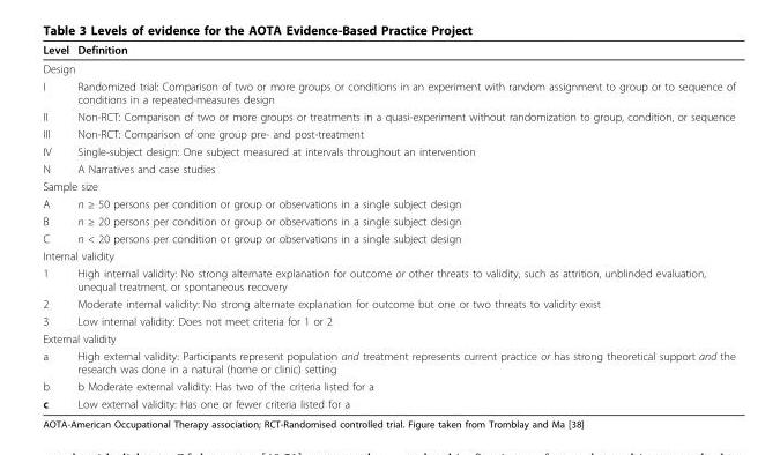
<table><thead><tr><td>Level</td><td>Definition</td></tr></thead><tbody><tr><td colspan="2">Design</td></tr><tr><td>I</td><td>Randomized trial: Comparison of two or more groups or conditions in an experiment with random assignment to group or to sequence of conditions in a repeated-measures design</td></tr><tr><td>II</td><td>Non-RCT: Comparison of two or more groups or treatments in a quasi-experiment without randomization to group, condition, or sequence</td></tr><tr><td>III</td><td>Non-RCT: Comparison of one group pre- and post-treatment</td></tr><tr><td>IV</td><td>Single-subject design: One subject measured at intervals throughout an intervention</td></tr><tr><td>N</td><td>A Narratives and case studies</td></tr><tr><td colspan="2">Sample size</td></tr><tr><td>A</td><td>n ≥ 50 persons per condition or group or observations in a single subject design</td></tr><tr><td>B</td><td>n ≥ 20 persons per condition or group or observations in a single subject design</td></tr><tr><td>C</td><td>n &lt; 20 persons per condition or group or observations in a single subject design</td></tr><tr><td colspan="2">Internal validity</td></tr><tr><td>1</td><td>High internal validity: No strong alternate explanation for outcome or other threats to validity, such as attrition, unblinded evaluation, unequal treatment, or spontaneous recovery</td></tr><tr><td>2</td><td>Moderate internal validity: No strong alternate explanation for outcome but one or two threats to validity exist</td></tr><tr><td>3</td><td>Low internal validity: Does not meet criteria for 1 or 2</td></tr><tr><td colspan="2">External validity</td></tr><tr><td>a</td><td>High external validity: Participants represent population and treatment represents current practice or has strong theoretical support and the research was done in a natural (home or clinic) setting</td></tr><tr><td>b</td><td>b Moderate external validity: Has two of the criteria listed for a</td></tr><tr><td>c</td><td>Low external validity: Has one or fewer criteria listed for a</td></tr></tbody></table>